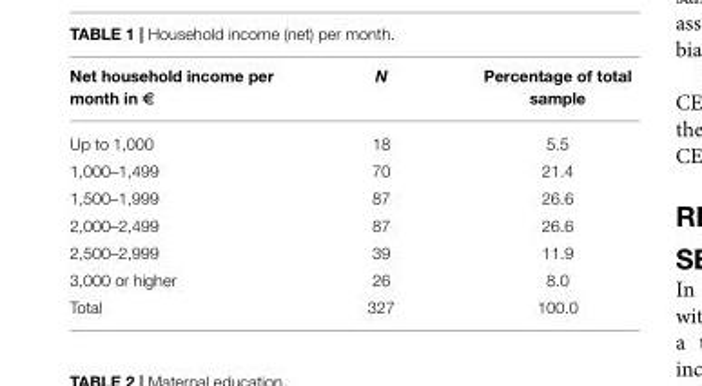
<table><thead><tr><td>Net household income per month in €</td><td>N</td><td>Percentage of total sample</td></tr></thead><tbody><tr><td>Up to 1,000</td><td>18</td><td>5.5</td></tr><tr><td>1,000–1,499</td><td>70</td><td>21.4</td></tr><tr><td>1,500–1,999</td><td>87</td><td>26.6</td></tr><tr><td>2,000–2,499</td><td>87</td><td>26.6</td></tr><tr><td>2,500–2,999</td><td>39</td><td>11.9</td></tr><tr><td>3,000 or higher</td><td>26</td><td>8.0</td></tr><tr><td>Total</td><td>327</td><td>100.0</td></tr></tbody></table>